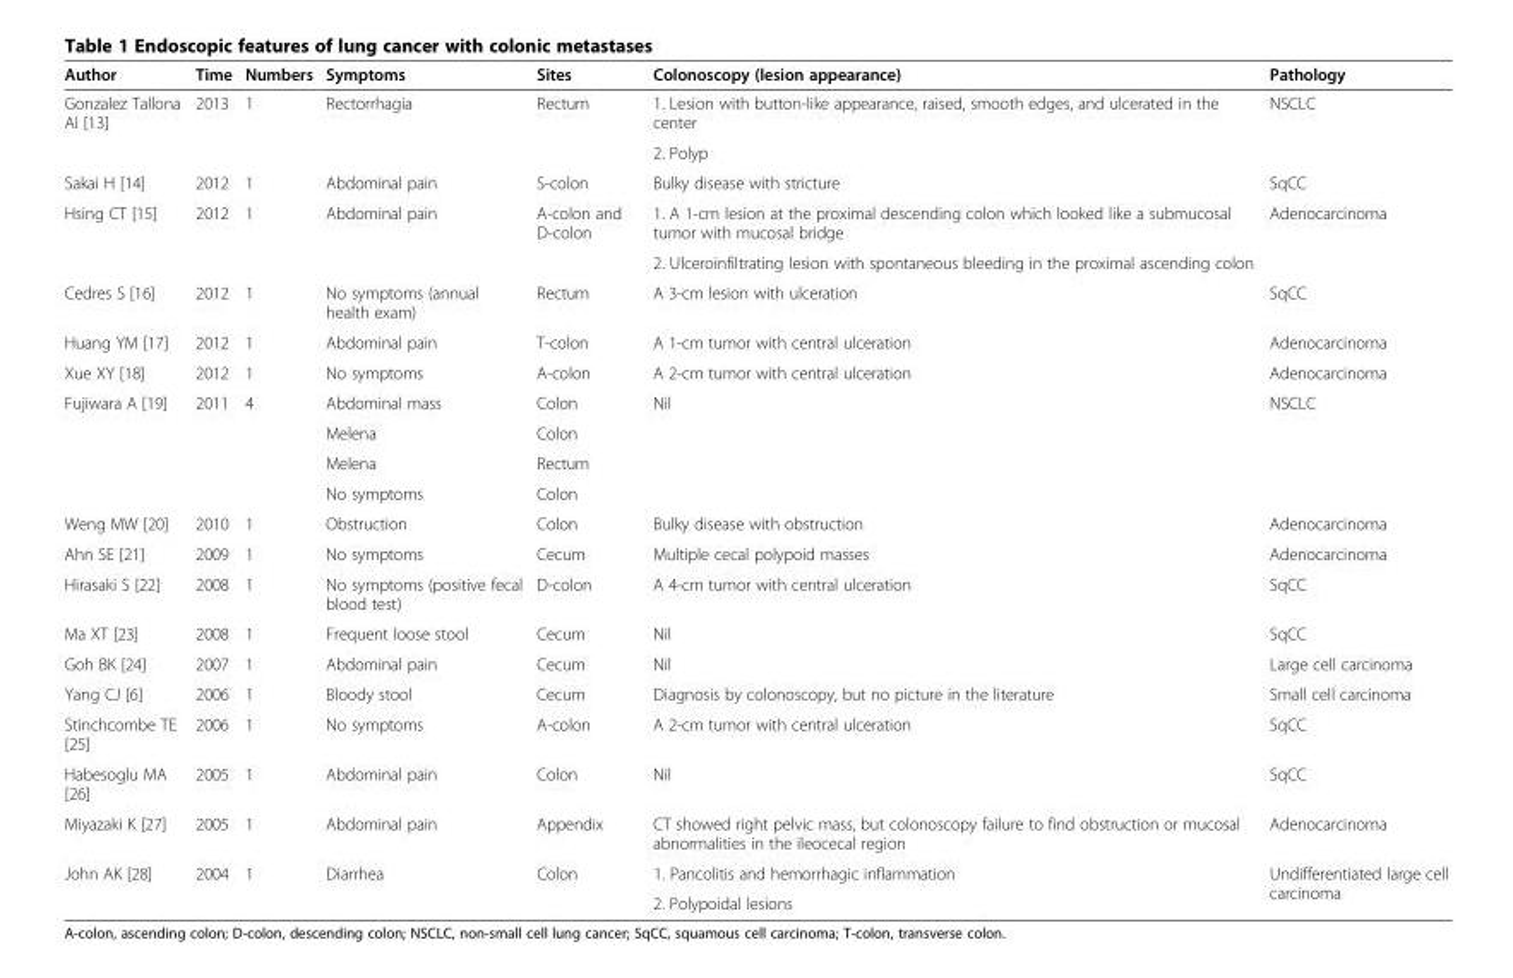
<table><thead><tr><td>Author</td><td>Time</td><td>Numbers</td><td>Symptoms</td><td>Sites</td><td>Colonoscopy (lesion appearance)</td><td>Pathology</td></tr></thead><tbody><tr><td rowspan="2">Gonzalez Tallona AI [13]</td><td>2013</td><td>1</td><td>Rectorrhagia</td><td>Rectum</td><td>1. Lesion with button-like appearance, raised, smooth edges, and ulcerated in the center</td><td>NSCLC</td></tr><tr><td></td><td></td><td></td><td></td><td>2. Polyp</td><td></td></tr><tr><td>Sakai H [14]</td><td>2012</td><td>1</td><td>Abdominal pain</td><td>S-colon</td><td>Bulky disease with stricture</td><td>SqCC</td></tr><tr><td rowspan="2">Hsing CT [15]</td><td rowspan="2">2012</td><td rowspan="2">1</td><td rowspan="2">Abdominal pain</td><td rowspan="2">A-colon and D-colon</td><td>1. A 1-cm lesion at the proximal descending colon which looked like a submucosal tumor with mucosal bridge</td><td rowspan="2">Adenocarcinoma</td></tr><tr><td>2. Ulceroinfiltrating lesion with spontaneous bleeding in the proximal ascending colon</td></tr><tr><td>Cedres S [16]</td><td>2012</td><td>1</td><td>No symptoms (annual health exam)</td><td>Rectum</td><td>A 3-cm lesion with ulceration</td><td>SqCC</td></tr><tr><td>Huang YM [17]</td><td>2012</td><td>1</td><td>Abdominal pain</td><td>T-colon</td><td>A 1-cm tumor with central ulceration</td><td>Adenocarcinoma</td></tr><tr><td>Xue XY [18]</td><td>2012</td><td>1</td><td>No symptoms</td><td>A-colon</td><td>A 2-cm tumor with central ulceration</td><td>Adenocarcinoma</td></tr><tr><td rowspan="4">Fujiwara A [19]</td><td>2011</td><td>4</td><td>Abdominal mass</td><td>Colon</td><td>Nil</td><td>NSCLC</td></tr><tr><td></td><td></td><td>Melena</td><td>Colon</td><td></td><td></td></tr><tr><td></td><td></td><td>Melena</td><td>Rectum</td><td></td><td></td></tr><tr><td></td><td></td><td>No symptoms</td><td>Colon</td><td></td><td></td></tr><tr><td>Weng MW [20]</td><td>2010</td><td>1</td><td>Obstruction</td><td>Colon</td><td>Bulky disease with obstruction</td><td>Adenocarcinoma</td></tr><tr><td>Ahn SE [21]</td><td>2009</td><td>1</td><td>No symptoms</td><td>Cecum</td><td>Multiple cecal polypoid masses</td><td>Adenocarcinoma</td></tr><tr><td>Hirasaki S [22]</td><td>2008</td><td>1</td><td>No symptoms (positive fecal blood test)</td><td>D-colon</td><td>A 4-cm tumor with central ulceration</td><td>SqCC</td></tr><tr><td>Ma XT [23]</td><td>2008</td><td>1</td><td>Frequent loose stool</td><td>Cecum</td><td>Nil</td><td>SqCC</td></tr><tr><td>Goh BK [24]</td><td>2007</td><td>1</td><td>Abdominal pain</td><td>Cecum</td><td>Nil</td><td>Large cell carcinoma</td></tr><tr><td>Yang CJ [6]</td><td>2006</td><td>1</td><td>Bloody stool</td><td>Cecum</td><td>Diagnosis by colonoscopy, but no picture in the literature</td><td>Small cell carcinoma</td></tr><tr><td>Stinchcombe TE [25]</td><td>2006</td><td>1</td><td>No symptoms</td><td>A-colon</td><td>A 2-cm tumor with central ulceration</td><td>SqCC</td></tr><tr><td>Habesoglu MA [26]</td><td>2005</td><td>1</td><td>Abdominal pain</td><td>Colon</td><td>Nil</td><td>SqCC</td></tr><tr><td>Miyazaki K [27]</td><td>2005</td><td>1</td><td>Abdominal pain</td><td>Appendix</td><td>CT showed right pelvic mass, but colonoscopy failure to find obstruction or mucosal abnormalities in the ileocecal region</td><td>Adenocarcinoma</td></tr><tr><td rowspan="2">John AK [28]</td><td rowspan="2">2004</td><td rowspan="2">1</td><td rowspan="2">Diarrhea</td><td rowspan="2">Colon</td><td>1. Pancolitis and hemorrhagic inflammation</td><td rowspan="2">Undifferentiated large cell carcinoma</td></tr><tr><td>2. Polypoidal lesions</td></tr></tbody></table>